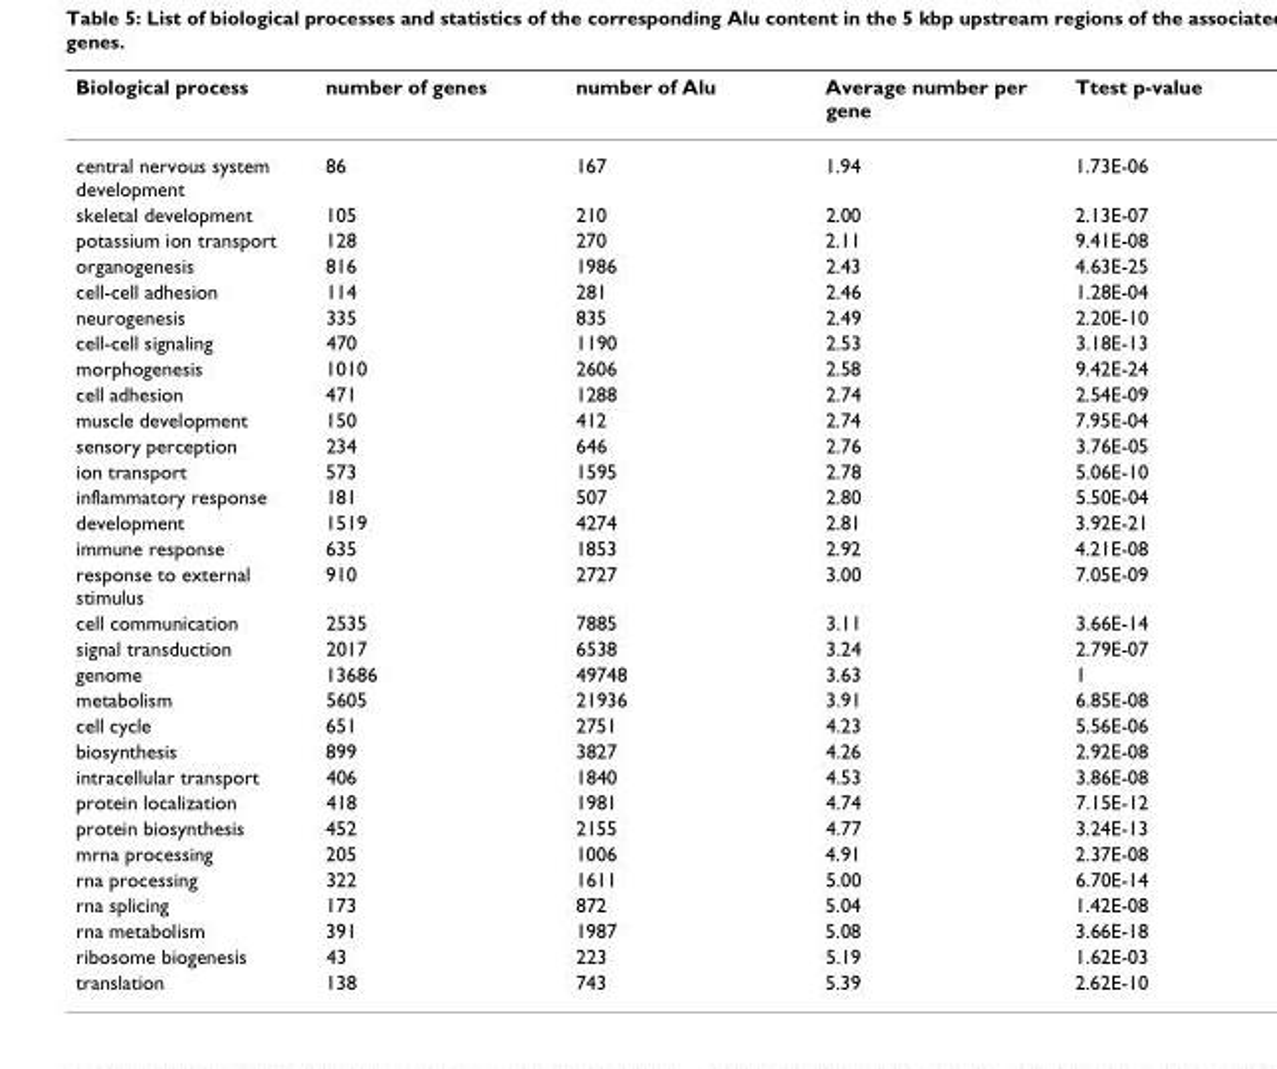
<table><thead><tr><td>Biological process</td><td>number of genes</td><td>number of Alu</td><td>Average number per gene</td><td>Ttest p-value</td></tr></thead><tbody><tr><td>central nervous system development</td><td>86</td><td>167</td><td>1.94</td><td>1.73E-06</td></tr><tr><td>skeletal development</td><td>105</td><td>210</td><td>2.00</td><td>2.13E-07</td></tr><tr><td>potassium ion transport</td><td>128</td><td>270</td><td>2.11</td><td>9.41E-08</td></tr><tr><td>organogenesis</td><td>816</td><td>1986</td><td>2.43</td><td>4.63E-25</td></tr><tr><td>cell-cell adhesion</td><td>114</td><td>281</td><td>2.46</td><td>1.28E-04</td></tr><tr><td>neurogenesis</td><td>335</td><td>835</td><td>2.49</td><td>2.20E-10</td></tr><tr><td>cell-cell signaling</td><td>470</td><td>1190</td><td>2.53</td><td>3.18E-13</td></tr><tr><td>morphogenesis</td><td>1010</td><td>2606</td><td>2.58</td><td>9.42E-24</td></tr><tr><td>cell adhesion</td><td>471</td><td>1288</td><td>2.74</td><td>2.54E-09</td></tr><tr><td>muscle development</td><td>150</td><td>412</td><td>2.74</td><td>7.95E-04</td></tr><tr><td>sensory perception</td><td>234</td><td>646</td><td>2.76</td><td>3.76E-05</td></tr><tr><td>ion transport</td><td>573</td><td>1595</td><td>2.78</td><td>5.06E-10</td></tr><tr><td>inflammatory response</td><td>181</td><td>507</td><td>2.80</td><td>5.50E-04</td></tr><tr><td>development</td><td>1519</td><td>4274</td><td>2.81</td><td>3.92E-21</td></tr><tr><td>immune response</td><td>635</td><td>1853</td><td>2.92</td><td>4.21E-08</td></tr><tr><td>response to external stimulus</td><td>910</td><td>2727</td><td>3.00</td><td>7.05E-09</td></tr><tr><td>cell communication</td><td>2535</td><td>7885</td><td>3.11</td><td>3.66E-14</td></tr><tr><td>signal transduction</td><td>2017</td><td>6538</td><td>3.24</td><td>2.79E-07</td></tr><tr><td>genome</td><td>13686</td><td>49748</td><td>3.63</td><td>1</td></tr><tr><td>metabolism</td><td>5605</td><td>21936</td><td>3.91</td><td>6.85E-08</td></tr><tr><td>cell cycle</td><td>651</td><td>2751</td><td>4.23</td><td>5.56E-06</td></tr><tr><td>biosynthesis</td><td>899</td><td>3827</td><td>4.26</td><td>2.92E-08</td></tr><tr><td>intracellular transport</td><td>406</td><td>1840</td><td>4.53</td><td>3.86E-08</td></tr><tr><td>protein localization</td><td>418</td><td>1981</td><td>4.74</td><td>7.15E-12</td></tr><tr><td>protein biosynthesis</td><td>452</td><td>2155</td><td>4.77</td><td>3.24E-13</td></tr><tr><td>mrna processing</td><td>205</td><td>1006</td><td>4.91</td><td>2.37E-08</td></tr><tr><td>rna processing</td><td>322</td><td>1611</td><td>5.00</td><td>6.70E-14</td></tr><tr><td>rna splicing</td><td>173</td><td>872</td><td>5.04</td><td>1.42E-08</td></tr><tr><td>rna metabolism</td><td>391</td><td>1987</td><td>5.08</td><td>3.66E-18</td></tr><tr><td>ribosome biogenesis</td><td>43</td><td>223</td><td>5.19</td><td>1.62E-03</td></tr><tr><td>translation</td><td>138</td><td>743</td><td>5.39</td><td>2.62E-10</td></tr></tbody></table>